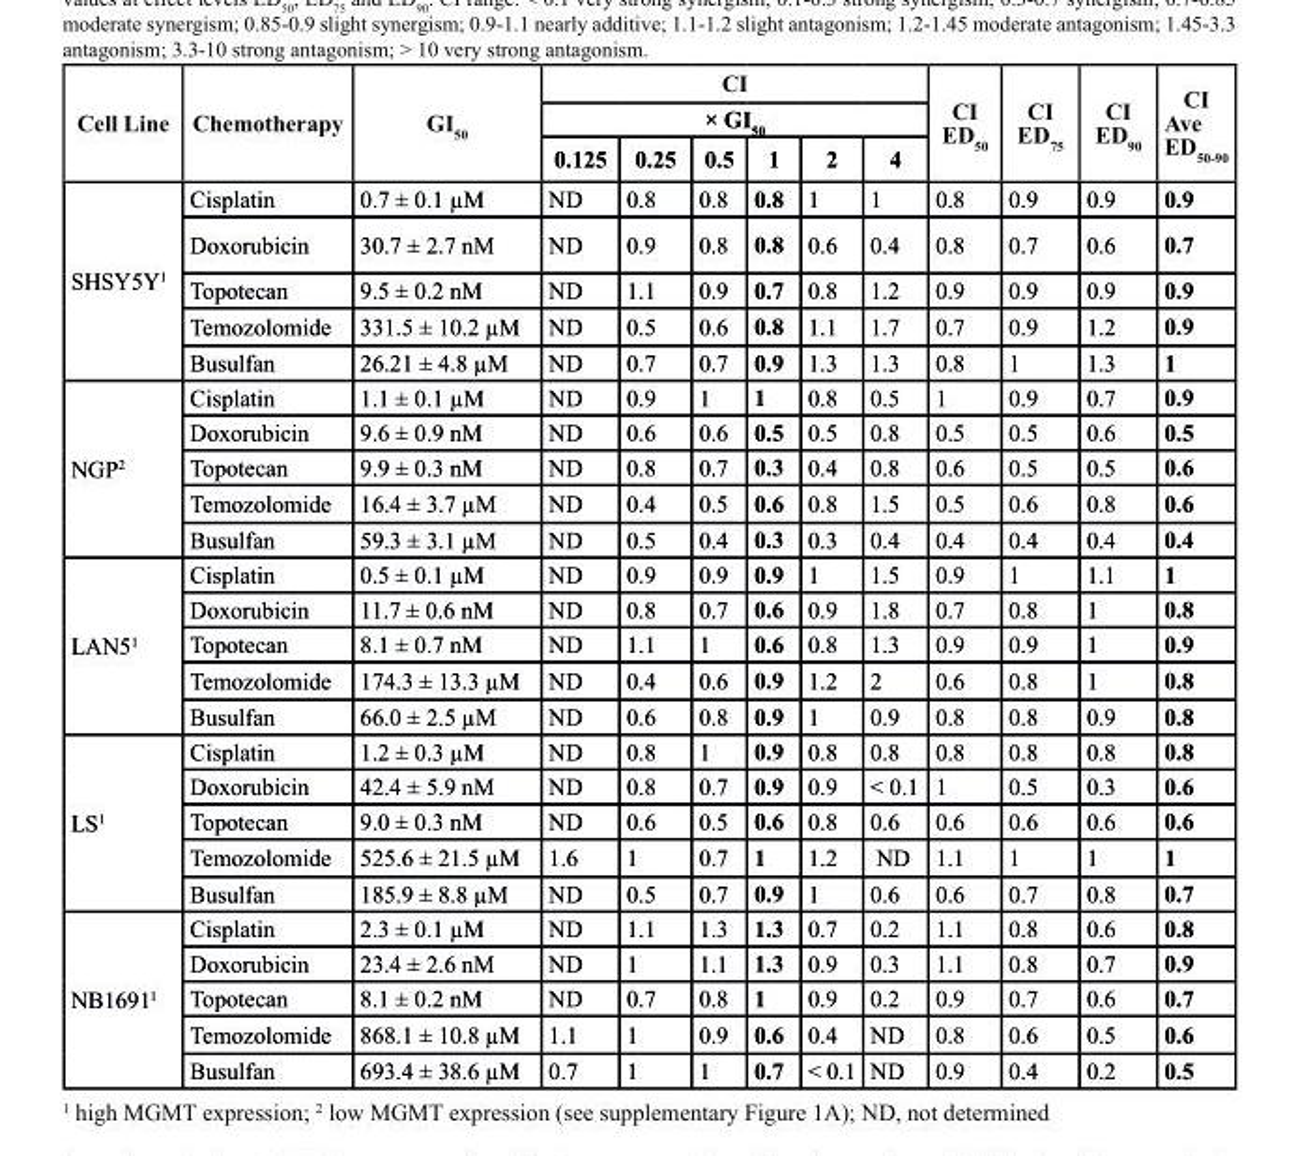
<table><thead><tr><td rowspan="3">cell line</td><td rowspan="3">chemotherapy</td><td rowspan="3">GI<sub>50</sub></td><td rowspan="2" colspan="6">cI × GI<sub>50</sub></td><td rowspan="3">cI ed<sub>50</sub></td><td rowspan="3">cI ed<sub>75</sub></td><td rowspan="3">cI ed<sub>90</sub></td><td rowspan="3">cI Ave ed<sub>50-90</sub></td></tr><tr></tr><tr><td>0.125</td><td>0.25</td><td>0.5</td><td>1</td><td>2</td><td>4</td></tr></thead><tbody><tr><td rowspan="5">SHSY5Y<sup>1</sup></td><td>Cisplatin</td><td>0.7 ± 0.1 µM</td><td>ND</td><td>0.8</td><td>0.8</td><td>0.8</td><td>1</td><td>1</td><td>0.8</td><td>0.9</td><td>0.9</td><td>0.9</td></tr><tr><td>Doxorubicin</td><td>30.7 ± 2.7 nM</td><td>ND</td><td>0.9</td><td>0.8</td><td>0.8</td><td>0.6</td><td>0.4</td><td>0.8</td><td>0.7</td><td>0.6</td><td>0.7</td></tr><tr><td>Topotecan</td><td>9.5 ± 0.2 nM</td><td>ND</td><td>1.1</td><td>0.9</td><td>0.7</td><td>0.8</td><td>1.2</td><td>0.9</td><td>0.9</td><td>0.9</td><td>0.9</td></tr><tr><td>Temozolomide</td><td>331.5 ± 10.2 µM</td><td>ND</td><td>0.5</td><td>0.6</td><td>0.8</td><td>1.1</td><td>1.7</td><td>0.7</td><td>0.9</td><td>1.2</td><td>0.9</td></tr><tr><td>Busulfan</td><td>26.21 ± 4.8 µM</td><td>ND</td><td>0.7</td><td>0.7</td><td>0.9</td><td>1.3</td><td>1.3</td><td>0.8</td><td>1</td><td>1.3</td><td>1</td></tr><tr><td rowspan="5">NGP<sup>2</sup></td><td>Cisplatin</td><td>1.1 ± 0.1 µM</td><td>ND</td><td>0.9</td><td>1</td><td>1</td><td>0.8</td><td>0.5</td><td>1</td><td>0.9</td><td>0.7</td><td>0.9</td></tr><tr><td>Doxorubicin</td><td>9.6 ± 0.9 nM</td><td>ND</td><td>0.6</td><td>0.6</td><td>0.5</td><td>0.5</td><td>0.8</td><td>0.5</td><td>0.5</td><td>0.6</td><td>0.5</td></tr><tr><td>Topotecan</td><td>9.9 ± 0.3 nM</td><td>ND</td><td>0.8</td><td>0.7</td><td>0.3</td><td>0.4</td><td>0.8</td><td>0.6</td><td>0.5</td><td>0.5</td><td>0.6</td></tr><tr><td>Temozolomide</td><td>16.4 ± 3.7 µM</td><td>ND</td><td>0.4</td><td>0.5</td><td>0.6</td><td>0.8</td><td>1.5</td><td>0.5</td><td>0.6</td><td>0.8</td><td>0.6</td></tr><tr><td>Busulfan</td><td>59.3 ± 3.1 µM</td><td>ND</td><td>0.5</td><td>0.4</td><td>0.3</td><td>0.3</td><td>0.4</td><td>0.4</td><td>0.4</td><td>0.4</td><td>0.4</td></tr><tr><td rowspan="5">LAN5<sup>1</sup></td><td>Cisplatin</td><td>0.5 ± 0.1 µM</td><td>ND</td><td>0.9</td><td>0.9</td><td>0.9</td><td>1</td><td>1.5</td><td>0.9</td><td>1</td><td>1.1</td><td>1</td></tr><tr><td>Doxorubicin</td><td>11.7 ± 0.6 nM</td><td>ND</td><td>0.8</td><td>0.7</td><td>0.6</td><td>0.9</td><td>1.8</td><td>0.7</td><td>0.8</td><td>1</td><td>0.8</td></tr><tr><td>Topotecan</td><td>8.1 ± 0.7 nM</td><td>ND</td><td>1.1</td><td>1</td><td>0.6</td><td>0.8</td><td>1.3</td><td>0.9</td><td>0.9</td><td>1</td><td>0.9</td></tr><tr><td>Temozolomide</td><td>174.3 ± 13.3 µM</td><td>ND</td><td>0.4</td><td>0.6</td><td>0.9</td><td>1.2</td><td>2</td><td>0.6</td><td>0.8</td><td>1</td><td>0.8</td></tr><tr><td>Busulfan</td><td>66.0 ± 2.5 µM</td><td>ND</td><td>0.6</td><td>0.8</td><td>0.9</td><td>1</td><td>0.9</td><td>0.8</td><td>0.8</td><td>0.9</td><td>0.8</td></tr><tr><td rowspan="5">LS<sup>1</sup></td><td>Cisplatin</td><td>1.2 ± 0.3 µM</td><td>ND</td><td>0.8</td><td>1</td><td>0.9</td><td>0.8</td><td>0.8</td><td>0.8</td><td>0.8</td><td>0.8</td><td>0.8</td></tr><tr><td>Doxorubicin</td><td>42.4 ± 5.9 nM</td><td>ND</td><td>0.8</td><td>0.7</td><td>0.9</td><td>0.9</td><td>&lt; 0.1</td><td>1</td><td>0.5</td><td>0.3</td><td>0.6</td></tr><tr><td>Topotecan</td><td>9.0 ± 0.3 nM</td><td>ND</td><td>0.6</td><td>0.5</td><td>0.6</td><td>0.8</td><td>0.6</td><td>0.6</td><td>0.6</td><td>0.6</td><td>0.6</td></tr><tr><td>Temozolomide</td><td>525.6 ± 21.5 µM</td><td>1.6</td><td>1</td><td>0.7</td><td>1</td><td>1.2</td><td>ND</td><td>1.1</td><td>1</td><td>1</td><td>1</td></tr><tr><td>Busulfan</td><td>185.9 ± 8.8 µM</td><td>ND</td><td>0.5</td><td>0.7</td><td>0.9</td><td>1</td><td>0.6</td><td>0.6</td><td>0.7</td><td>0.8</td><td>0.7</td></tr><tr><td rowspan="5">NB1691<sup>1</sup></td><td>Cisplatin</td><td>2.3 ± 0.1 µM</td><td>ND</td><td>1.1</td><td>1.3</td><td>1.3</td><td>0.7</td><td>0.2</td><td>1.1</td><td>0.8</td><td>0.6</td><td>0.8</td></tr><tr><td>Doxorubicin</td><td>23.4 ± 2.6 nM</td><td>ND</td><td>1</td><td>1.1</td><td>1.3</td><td>0.9</td><td>0.3</td><td>1.1</td><td>0.8</td><td>0.7</td><td>0.9</td></tr><tr><td>Topotecan</td><td>8.1 ± 0.2 nM</td><td>ND</td><td>0.7</td><td>0.8</td><td>1</td><td>0.9</td><td>0.2</td><td>0.9</td><td>0.7</td><td>0.6</td><td>0.7</td></tr><tr><td>Temozolomide</td><td>868.1 ± 10.8 µM</td><td>1.1</td><td>1</td><td>0.9</td><td>0.6</td><td>0.4</td><td>ND</td><td>0.8</td><td>0.6</td><td>0.5</td><td>0.6</td></tr><tr><td>Busulfan</td><td>693.4 ± 38.6 µM</td><td>0.7</td><td>1</td><td>1</td><td>0.7</td><td>&lt; 0.1</td><td>ND</td><td>0.9</td><td>0.4</td><td>0.2</td><td>0.5</td></tr></tbody></table>